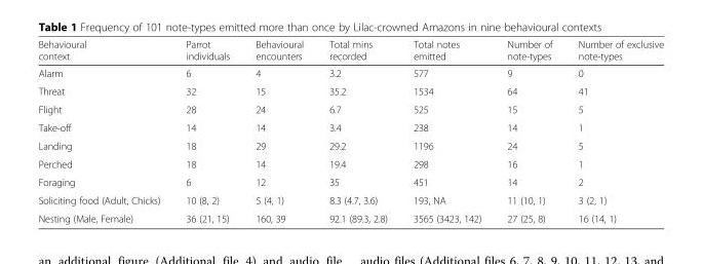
<table><thead><tr><td>Behavioural context</td><td>Parrot individuals</td><td>Behavioural encounters</td><td>Total mins recorded</td><td>Total notes emitted</td><td>Number of note-types</td><td>Number of exclusive note-types</td></tr></thead><tbody><tr><td>Alarm</td><td>6</td><td>4</td><td>3.2</td><td>577</td><td>9</td><td>0</td></tr><tr><td>Threat</td><td>32</td><td>15</td><td>35.2</td><td>1534</td><td>64</td><td>41</td></tr><tr><td>Flight</td><td>28</td><td>24</td><td>6.7</td><td>525</td><td>15</td><td>5</td></tr><tr><td>Take-off</td><td>14</td><td>14</td><td>3.4</td><td>238</td><td>14</td><td>1</td></tr><tr><td>Landing</td><td>18</td><td>29</td><td>29.2</td><td>1196</td><td>24</td><td>5</td></tr><tr><td>Perched</td><td>18</td><td>14</td><td>19.4</td><td>298</td><td>16</td><td>1</td></tr><tr><td>Foraging</td><td>6</td><td>12</td><td>35</td><td>451</td><td>14</td><td>2</td></tr><tr><td>Soliciting food (Adult, Chicks)</td><td>10 (8, 2)</td><td>5 (4, 1)</td><td>8.3 (4.7, 3.6)</td><td>193, NA</td><td>11 (10, 1)</td><td>3 (2, 1)</td></tr><tr><td>Nesting (Male, Female)</td><td>36 (21, 15)</td><td>160, 39</td><td>92.1 (89.3, 2.8)</td><td>3565 (3423, 142)</td><td>27 (25, 8)</td><td>16 (14, 1)</td></tr></tbody></table>